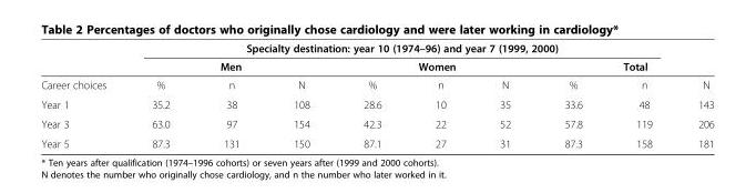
<table><thead><tr><td rowspan="3">Career choices</td><td colspan="8">Specialty destination: year 10 (1974–96) and year 7 (1999, 2000)</td><td></td></tr><tr><td colspan="3">Men</td><td colspan="3">Women</td><td colspan="3">Total</td></tr><tr><td>%</td><td>n</td><td>N</td><td>%</td><td>n</td><td>N</td><td>%</td><td>n</td><td>N</td></tr></thead><tbody><tr><td>Year 1</td><td>35.2</td><td>38</td><td>108</td><td>28.6</td><td>10</td><td>35</td><td>33.6</td><td>48</td><td>143</td></tr><tr><td>Year 3</td><td>63.0</td><td>97</td><td>154</td><td>42.3</td><td>22</td><td>52</td><td>57.8</td><td>119</td><td>206</td></tr><tr><td>Year 5</td><td>87.3</td><td>131</td><td>150</td><td>87.1</td><td>27</td><td>31</td><td>87.3</td><td>158</td><td>181</td></tr></tbody></table>